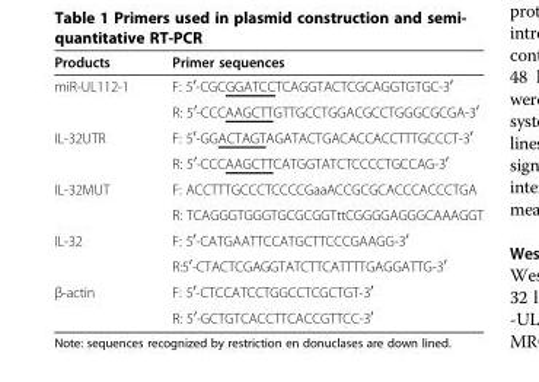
<table><thead><tr><td>Products</td><td>Primer sequences</td></tr></thead><tbody><tr><td rowspan="2">miR-UL112-1</td><td>F: 5<sup>′</sup>-CGCGGATCCTCAGGTACTCGCAGGTGTGC-3<sup>′</sup></td></tr><tr><td>R: 5<sup>′</sup>-CCCAAGCTTGTTGCCTGGACGCCTGGGCGCGA-3<sup>′</sup></td></tr><tr><td rowspan="2">IL-32UTR</td><td>F: 5<sup>′</sup>-GGACTAGTAGATACTGACACCACCTTTGCCCT-3<sup>′</sup></td></tr><tr><td>R: 5<sup>′</sup>-CCCAAGCTTCATGGTATCTCCCCTGCCAG-3<sup>′</sup></td></tr><tr><td rowspan="2">IL-32MUT</td><td>F: ACCTTTGCCCTCCCCGaaACCGCGCACCCACCCTGA</td></tr><tr><td>R: TCAGGGTGGGTGCGCGGTttCGGGGAGGGCAAAGGT</td></tr><tr><td rowspan="2">IL-32</td><td>F: 5<sup>′</sup>-CATGAATTCCATGCTTCCCGAAGG-3<sup>′</sup></td></tr><tr><td>R:5<sup>′</sup>-CTACTCGAGGTATCTTCATTTTGAGGATTG-3<sup>′</sup></td></tr><tr><td rowspan="2">β-actin</td><td>F: 5<sup>′</sup>-CTCCATCCTGGCCTCGCTGT-3<sup>′</sup></td></tr><tr><td>R: 5<sup>′</sup>-GCTGTCACCTTCACCGTTCC-3<sup>′</sup></td></tr></tbody></table>